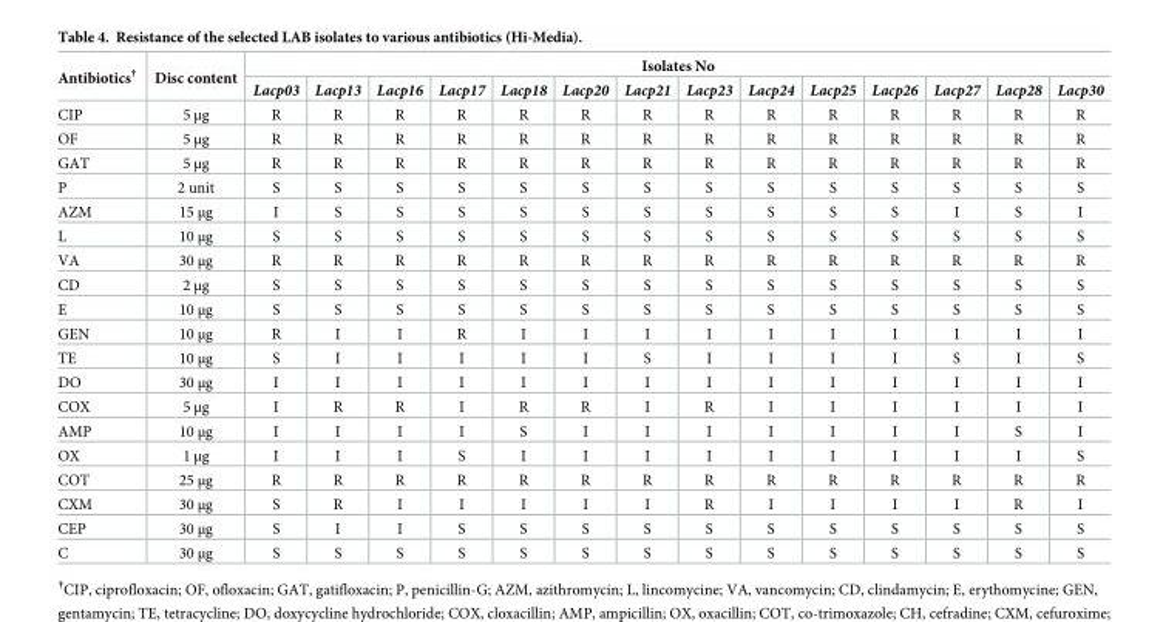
<table><thead><tr><td rowspan="2">Antibiotics<sup>†</sup></td><td rowspan="2">Disc content</td><td colspan="14">Isolates No</td></tr><tr><td>Lacp03</td><td>Lacp13</td><td>Lacp16</td><td>Lacp17</td><td>Lacp18</td><td>Lacp20</td><td>Lacp21</td><td>Lacp23</td><td>Lacp24</td><td>Lacp25</td><td>Lacp26</td><td>Lacp27</td><td>Lacp28</td><td>Lacp30</td></tr></thead><tbody><tr><td>CIP</td><td>5 μg</td><td>R</td><td>R</td><td>R</td><td>R</td><td>R</td><td>R</td><td>R</td><td>R</td><td>R</td><td>R</td><td>R</td><td>R</td><td>R</td><td>R</td></tr><tr><td>OF</td><td>5 μg</td><td>R</td><td>R</td><td>R</td><td>R</td><td>R</td><td>R</td><td>R</td><td>R</td><td>R</td><td>R</td><td>R</td><td>R</td><td>R</td><td>R</td></tr><tr><td>GAT</td><td>5 μg</td><td>R</td><td>R</td><td>R</td><td>R</td><td>R</td><td>R</td><td>R</td><td>R</td><td>R</td><td>R</td><td>R</td><td>R</td><td>R</td><td>R</td></tr><tr><td>P</td><td>2 unit</td><td>S</td><td>S</td><td>S</td><td>S</td><td>S</td><td>S</td><td>S</td><td>S</td><td>S</td><td>S</td><td>S</td><td>S</td><td>S</td><td>S</td></tr><tr><td>AZM</td><td>15 μg</td><td>I</td><td>S</td><td>S</td><td>S</td><td>S</td><td>S</td><td>S</td><td>S</td><td>S</td><td>S</td><td>S</td><td>I</td><td>S</td><td>I</td></tr><tr><td>L</td><td>10 μg</td><td>S</td><td>S</td><td>S</td><td>S</td><td>S</td><td>S</td><td>S</td><td>S</td><td>S</td><td>S</td><td>S</td><td>S</td><td>S</td><td>S</td></tr><tr><td>VA</td><td>30 μg</td><td>R</td><td>R</td><td>R</td><td>R</td><td>R</td><td>R</td><td>R</td><td>R</td><td>R</td><td>R</td><td>R</td><td>R</td><td>R</td><td>R</td></tr><tr><td>CD</td><td>2 μg</td><td>S</td><td>S</td><td>S</td><td>S</td><td>S</td><td>S</td><td>S</td><td>S</td><td>S</td><td>S</td><td>S</td><td>S</td><td>S</td><td>S</td></tr><tr><td>E</td><td>10 μg</td><td>S</td><td>S</td><td>S</td><td>S</td><td>S</td><td>S</td><td>S</td><td>S</td><td>S</td><td>S</td><td>S</td><td>S</td><td>S</td><td>S</td></tr><tr><td>GEN</td><td>10 μg</td><td>R</td><td>I</td><td>I</td><td>R</td><td>I</td><td>I</td><td>I</td><td>I</td><td>I</td><td>I</td><td>I</td><td>I</td><td>I</td><td>I</td></tr><tr><td>TE</td><td>10 μg</td><td>S</td><td>I</td><td>I</td><td>I</td><td>I</td><td>I</td><td>S</td><td>I</td><td>I</td><td>I</td><td>I</td><td>S</td><td>I</td><td>S</td></tr><tr><td>DO</td><td>30 μg</td><td>I</td><td>I</td><td>I</td><td>I</td><td>I</td><td>I</td><td>I</td><td>I</td><td>I</td><td>I</td><td>I</td><td>I</td><td>I</td><td>I</td></tr><tr><td>COX</td><td>5 μg</td><td>I</td><td>R</td><td>R</td><td>I</td><td>R</td><td>R</td><td>I</td><td>R</td><td>I</td><td>I</td><td>I</td><td>I</td><td>I</td><td>I</td></tr><tr><td>AMP</td><td>10 μg</td><td>I</td><td>I</td><td>I</td><td>I</td><td>S</td><td>I</td><td>I</td><td>I</td><td>I</td><td>I</td><td>I</td><td>I</td><td>S</td><td>I</td></tr><tr><td>OX</td><td>1 μg</td><td>I</td><td>I</td><td>I</td><td>S</td><td>I</td><td>I</td><td>I</td><td>I</td><td>I</td><td>I</td><td>I</td><td>I</td><td>I</td><td>S</td></tr><tr><td>COT</td><td>25 μg</td><td>R</td><td>R</td><td>R</td><td>R</td><td>R</td><td>R</td><td>R</td><td>R</td><td>R</td><td>R</td><td>R</td><td>R</td><td>R</td><td>R</td></tr><tr><td>CXM</td><td>30 μg</td><td>S</td><td>R</td><td>I</td><td>I</td><td>I</td><td>I</td><td>I</td><td>R</td><td>I</td><td>I</td><td>I</td><td>I</td><td>R</td><td>I</td></tr><tr><td>CEP</td><td>30 μg</td><td>S</td><td>I</td><td>I</td><td>S</td><td>S</td><td>S</td><td>S</td><td>S</td><td>S</td><td>S</td><td>S</td><td>S</td><td>S</td><td>S</td></tr><tr><td>C</td><td>30 μg</td><td>S</td><td>S</td><td>S</td><td>S</td><td>S</td><td>S</td><td>S</td><td>S</td><td>S</td><td>S</td><td>S</td><td>S</td><td>S</td><td>S</td></tr></tbody></table>